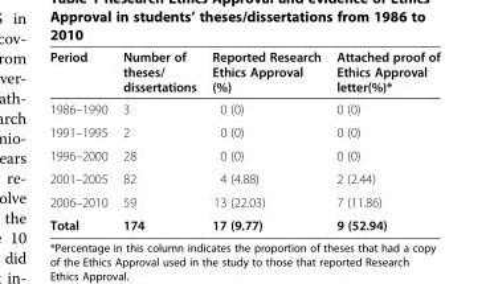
<table><thead><tr><td>Period</td><td>Number of theses/ dissertations</td><td>Reported Research Ethics Approval (%)</td><td>Attached proof of Ethics Approval letter(%)*</td></tr></thead><tbody><tr><td>1986–1990</td><td>3</td><td>0 (0)</td><td>0 (0)</td></tr><tr><td>1991–1995</td><td>2</td><td>0 (0)</td><td>0 (0)</td></tr><tr><td>1996–2000</td><td>28</td><td>0 (0)</td><td>0 (0)</td></tr><tr><td>2001–2005</td><td>82</td><td>4 (4.88)</td><td>2 (2.44)</td></tr><tr><td>2006–2010</td><td>59</td><td>13 (22.03)</td><td>7 (11.86)</td></tr><tr><td>Total</td><td>174</td><td>17 (9.77)</td><td>9 (52.94)</td></tr></tbody></table>